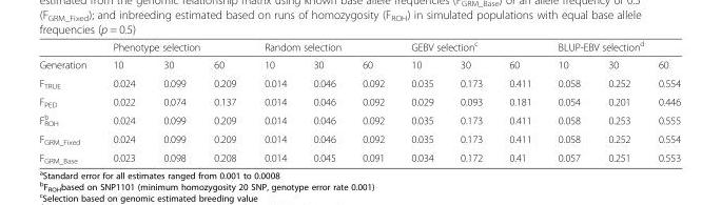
<table><thead><tr><td rowspan="2">Generation</td><td colspan="3">Phenotype selection</td><td colspan="3">Random selection</td><td colspan="3">GEBV selection<sup>c</sup></td><td colspan="3">BLUP-EBV selection<sup>d</sup></td></tr><tr><td>10</td><td>30</td><td>60</td><td>10</td><td>30</td><td>60</td><td>10</td><td>30</td><td>60</td><td>10</td><td>30</td><td>60</td></tr></thead><tbody><tr><td>F<sub>TRUE</sub></td><td>0.024</td><td>0.099</td><td>0.209</td><td>0.014</td><td>0.046</td><td>0.092</td><td>0.035</td><td>0.173</td><td>0.411</td><td>0.058</td><td>0.252</td><td>0.554</td></tr><tr><td>F<sub>PED</sub></td><td>0.022</td><td>0.074</td><td>0.137</td><td>0.014</td><td>0.046</td><td>0.092</td><td>0.029</td><td>0.093</td><td>0.181</td><td>0.054</td><td>0.201</td><td>0.446</td></tr><tr><td>F<sub>ROH</sub> <sup>b</sup></td><td>0.024</td><td>0.099</td><td>0.209</td><td>0.014</td><td>0.046</td><td>0.092</td><td>0.035</td><td>0.173</td><td>0.411</td><td>0.058</td><td>0.253</td><td>0.555</td></tr><tr><td>F<sub>GRM_Fixed</sub></td><td>0.024</td><td>0.099</td><td>0.209</td><td>0.014</td><td>0.046</td><td>0.092</td><td>0.035</td><td>0.173</td><td>0.411</td><td>0.058</td><td>0.252</td><td>0.554</td></tr><tr><td>F<sub>GRM_Base</sub></td><td>0.023</td><td>0.098</td><td>0.208</td><td>0.014</td><td>0.045</td><td>0.091</td><td>0.034</td><td>0.172</td><td>0.41</td><td>0.057</td><td>0.251</td><td>0.553</td></tr></tbody></table>